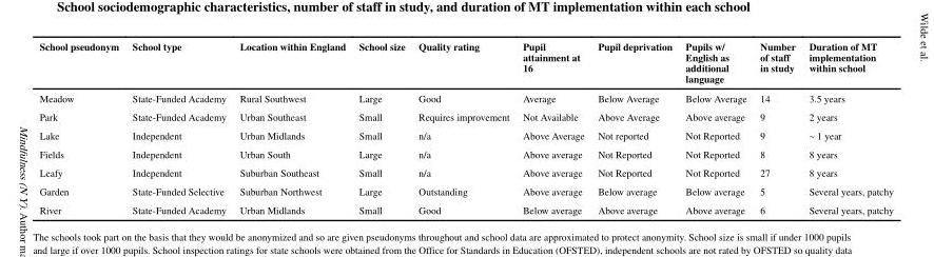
<table><thead><tr><td>School pseudonym</td><td>School type</td><td>Location within England</td><td>School size</td><td>Quality rating</td><td>Pupil attainment at 16</td><td>Pupil deprivation</td><td>Pupils w/ English as additional language</td><td>Number of staff in study</td><td>Duration of MT implementation within school</td></tr></thead><tbody><tr><td>Meadow</td><td>State-Funded Academy</td><td>Rural Southwest</td><td>Large</td><td>Good</td><td>Average</td><td>Below Average</td><td>Below Average</td><td>14</td><td>3.5 years</td></tr><tr><td>Park</td><td>State-Funded Academy</td><td>Urban Southeast</td><td>Small</td><td>Requires improvement</td><td>Not Available</td><td>Above Average</td><td>Above average</td><td>9</td><td>2 years</td></tr><tr><td>Lake</td><td>Independent</td><td>Urban Midlands</td><td>Small</td><td>n/a</td><td>Above Average</td><td>Not reported</td><td>Not Reported</td><td>9</td><td>~ 1 year</td></tr><tr><td>Fields</td><td>Independent</td><td>Urban South</td><td>Large</td><td>n/a</td><td>Above average</td><td>Not Reported</td><td>Not Reported</td><td>8</td><td>8 years</td></tr><tr><td>Leafy</td><td>Independent</td><td>Suburban Southeast</td><td>Small</td><td>n/a</td><td>Above average</td><td>Not Reported</td><td>Not Reported</td><td>27</td><td>8 years</td></tr><tr><td>Garden</td><td>State-Funded Selective</td><td>Suburban Northwest</td><td>Large</td><td>Outstanding</td><td>Above average</td><td>Below average</td><td>Below average</td><td>5</td><td>Several years, patchy</td></tr><tr><td>River</td><td>State-Funded Academy</td><td>Urban Midlands</td><td>Small</td><td>Good</td><td>Below average</td><td>Above average</td><td>Above average</td><td>6</td><td>Several years, patchy</td></tr></tbody></table>